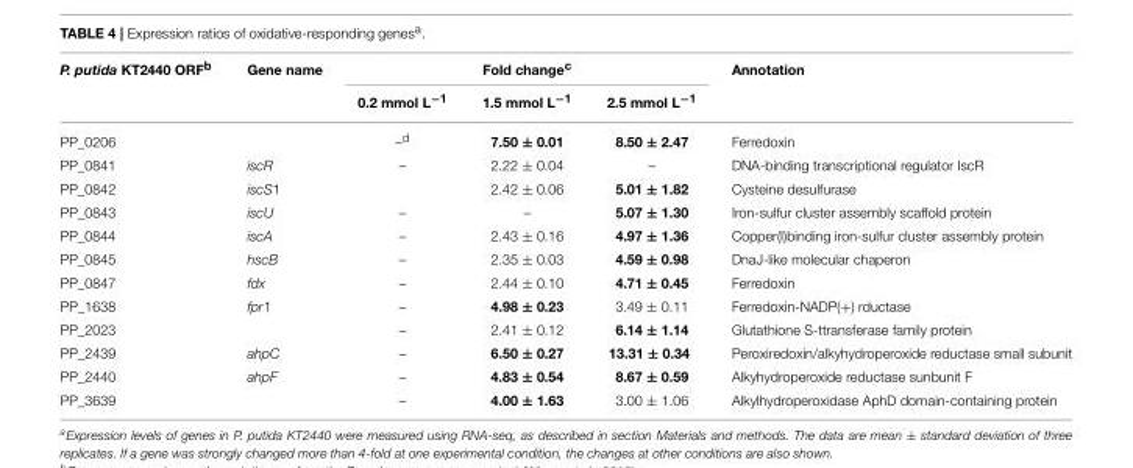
<table><thead><tr><td rowspan="2">P. putida KT2440 ORF<sup>b</sup></td><td rowspan="2">Gene name</td><td colspan="3">Fold change<sup>c</sup></td><td rowspan="2">Annotation</td></tr><tr><td>0.2 mmol L<sup>−1</sup></td><td>1.5 mmol L<sup>−1</sup></td><td>2.5 mmol L<sup>−1</sup></td></tr></thead><tbody><tr><td>PP_0206</td><td></td><td>–<sup>d</sup></td><td>7.50 ± 0.01</td><td>8.50 ± 2.47</td><td>Ferredoxin</td></tr><tr><td>PP_0841</td><td>iscR</td><td>–</td><td>2.22 ± 0.04</td><td>–</td><td>DNA-binding transcriptional regulator IscR</td></tr><tr><td>PP_0842</td><td>iscS1</td><td></td><td>2.42 ± 0.06</td><td>5.01 ± 1.82</td><td>Cysteine desulfurase</td></tr><tr><td>PP_0843</td><td>iscU</td><td>–</td><td>–</td><td>5.07 ± 1.30</td><td>Iron-sulfur cluster assembly scaffold protein</td></tr><tr><td>PP_0844</td><td>iscA</td><td>–</td><td>2.43 ± 0.16</td><td>4.97 ± 1.36</td><td>Copper(I)binding iron-sulfur cluster assembly protein</td></tr><tr><td>PP_0845</td><td>hscB</td><td>–</td><td>2.35 ± 0.03</td><td>4.59 ± 0.98</td><td>DnaJ-like molecular chaperon</td></tr><tr><td>PP_0847</td><td>fdx</td><td>–</td><td>2.44 ± 0.10</td><td>4.71 ± 0.45</td><td>Ferredoxin</td></tr><tr><td>PP_1638</td><td>fpr1</td><td>–</td><td>4.98 ± 0.23</td><td>3.49 ± 0.11</td><td>Ferredoxin-NADP(+) rductase</td></tr><tr><td>PP_2023</td><td></td><td>–</td><td>2.41 ± 0.12</td><td>6.14 ± 1.14</td><td>Glutathione S-ttransferase family protein</td></tr><tr><td>PP_2439</td><td>ahpC</td><td>–</td><td>6.50 ± 0.27</td><td>13.31 ± 0.34</td><td>Peroxiredoxin/alkyhydroperoxide reductase small subunit</td></tr><tr><td>PP_2440</td><td>ahpF</td><td>–</td><td>4.83 ± 0.54</td><td>8.67 ± 0.59</td><td>Alkyhydroperoxide reductase sunbunit F</td></tr><tr><td>PP_3639</td><td></td><td>–</td><td>4.00 ± 1.63</td><td>3.00 ± 1.06</td><td>Alkylhydroperoxidase AphD domain-containing protein</td></tr></tbody></table>